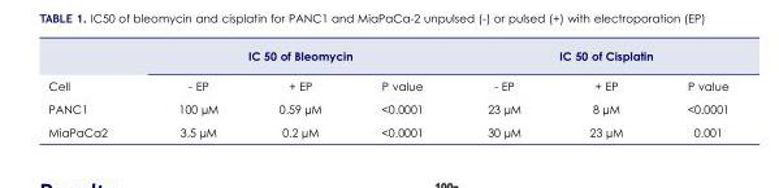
<table><thead><tr><td rowspan="2">Cell</td><td colspan="3">IC 50 of Bleomycin</td><td colspan="3">IC 50 of Cisplatin</td></tr><tr><td>- EP</td><td>+ EP</td><td>P value</td><td>- EP</td><td>+ EP</td><td>P value</td></tr></thead><tbody><tr><td>PANC1</td><td>100 μM</td><td>0.59 μM</td><td>&lt;0.0001</td><td>23 μM</td><td>8 μM</td><td>&lt;0.0001</td></tr><tr><td>MiaPaCa2</td><td>3.5 μM</td><td>0.2 μM</td><td>&lt;0.0001</td><td>30 μM</td><td>23 μM</td><td>0.001</td></tr></tbody></table>